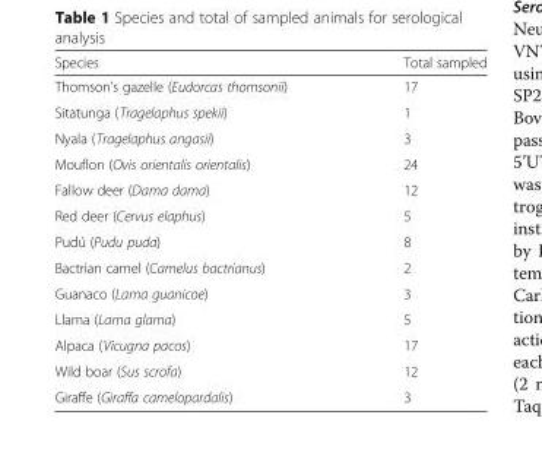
<table><thead><tr><td>Species</td><td>Total sampled</td></tr></thead><tbody><tr><td>Thomson’s gazelle (Eudorcas thomsonii)</td><td>17</td></tr><tr><td>Sitatunga (Tragelaphus spekii)</td><td>1</td></tr><tr><td>Nyala (Tragelaphus angasii)</td><td>3</td></tr><tr><td>Mouflon (Ovis orientalis orientalis)</td><td>24</td></tr><tr><td>Fallow deer (Dama dama)</td><td>12</td></tr><tr><td>Red deer (Cervus elaphus)</td><td>5</td></tr><tr><td>Pudú (Pudu puda)</td><td>8</td></tr><tr><td>Bactrian camel (Camelus bactrianus)</td><td>2</td></tr><tr><td>Guanaco (Lama guanicoe)</td><td>3</td></tr><tr><td>Llama (Lama glama)</td><td>5</td></tr><tr><td>Alpaca (Vicugna pacos)</td><td>17</td></tr><tr><td>Wild boar (Sus scrofa)</td><td>12</td></tr><tr><td>Giraffe (Giraffa camelopardalis)</td><td>3</td></tr></tbody></table>